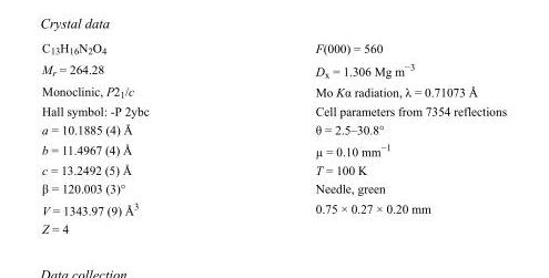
<table><tbody><tr><td>C<sub>13</sub>H<sub>16</sub>N<sub>2</sub>O<sub>4</sub></td><td>F(000) = 560</td></tr><tr><td>M<sub>r</sub> = 264.28</td><td>D<sub>x</sub> = 1.306 Mg m<sup>−3</sup></td></tr><tr><td>Monoclinic, P2<sub>1</sub>/c</td><td>Mo Kα radiation, λ = 0.71073 Å</td></tr><tr><td>Hall symbol: -P 2ybc</td><td>Cell parameters from 7354 reflections</td></tr><tr><td>a = 10.1885 (4) Å</td><td>θ = 2.5–30.8°</td></tr><tr><td>b = 11.4967 (4) Å</td><td>µ = 0.10 mm<sup>−1</sup></td></tr><tr><td>c = 13.2492 (5) Å</td><td>T = 100 K</td></tr><tr><td>β = 120.003 (3)°</td><td>Needle, green</td></tr><tr><td>V = 1343.97 (9) Å<sup>3</sup></td><td>0.75 × 0.27 × 0.20 mm</td></tr><tr><td>Z = 4</td><td></td></tr></tbody></table>